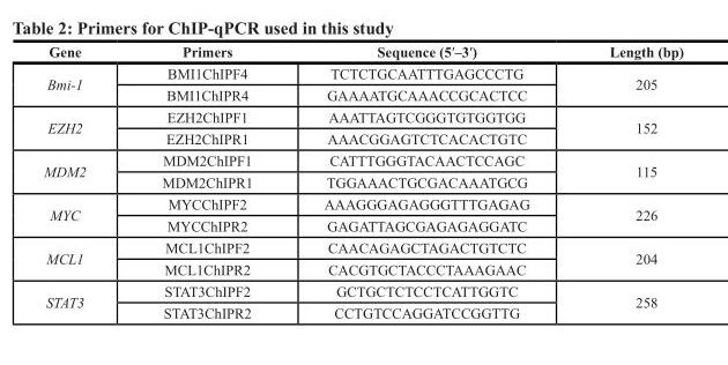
<table><thead><tr><td>Gene</td><td>Primers</td><td>Sequence (5′–3′)</td><td>Length (bp)</td></tr></thead><tbody><tr><td rowspan="2">Bmi-1</td><td>BMI1ChIPF4</td><td>TCTCTGCAATTTGAGCCCTG</td><td rowspan="2">205</td></tr><tr><td>BMI1ChIPR4</td><td>GAAAATGCAAACCGCACTCC</td></tr><tr><td rowspan="2">EZH2</td><td>EZH2ChIPF1</td><td>AAATTAGTCGGGTGTGGTGG</td><td rowspan="2">152</td></tr><tr><td>EZH2ChIPR1</td><td>AAACGGAGTCTCACACTGTC</td></tr><tr><td rowspan="2">MDM2</td><td>MDM2ChIPF1</td><td>CATTTGGGTACAACTCCAGC</td><td rowspan="2">115</td></tr><tr><td>MDM2ChIPR1</td><td>TGGAAACTGCGACAAATGCG</td></tr><tr><td rowspan="2">MYC</td><td>MYCChIPF2</td><td>AAAGGGAGAGGGTTTGAGAG</td><td rowspan="2">226</td></tr><tr><td>MYCChIPR2</td><td>GAGATTAGCGAGAGAGGATC</td></tr><tr><td rowspan="2">MCL1</td><td>MCL1ChIPF2</td><td>CAACAGAGCTAGACTGTCTC</td><td rowspan="2">204</td></tr><tr><td>MCL1ChIPR2</td><td>CACGTGCTACCCTAAAGAAC</td></tr><tr><td rowspan="2">STAT3</td><td>STAT3ChIPF2</td><td>GCTGCTCTCCTCATTGGTC</td><td rowspan="2">258</td></tr><tr><td>STAT3ChIPR2</td><td>CCTGTCCAGGATCCGGTTG</td></tr></tbody></table>